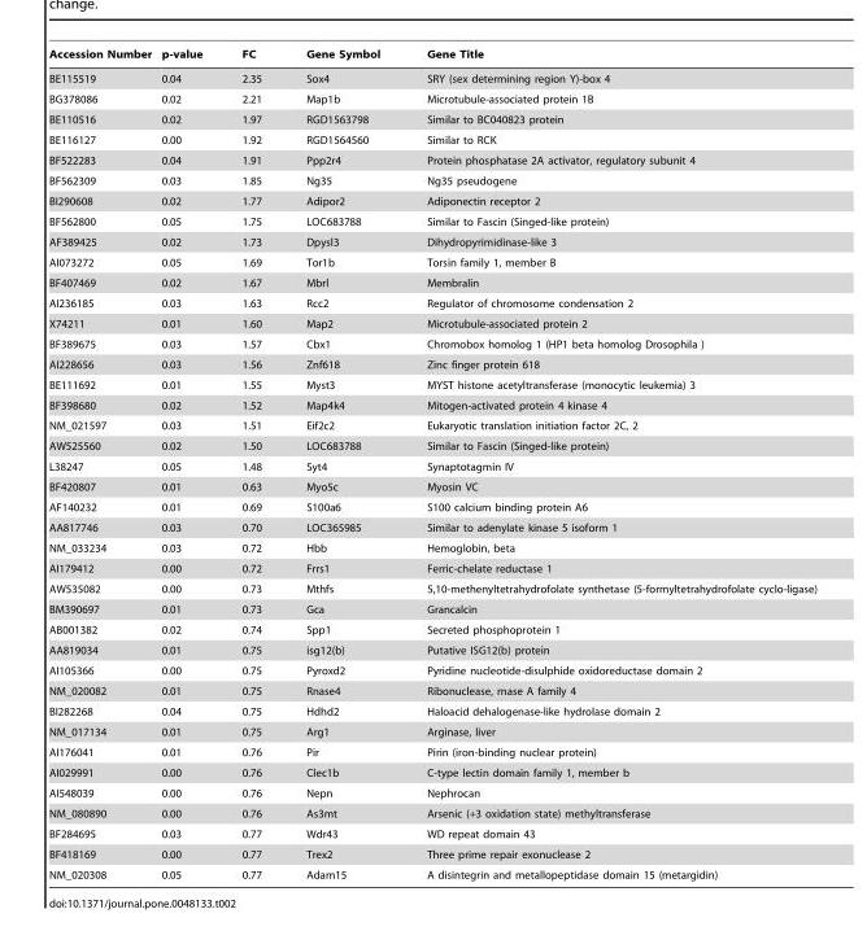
<table><thead><tr><td>Accession Number</td><td>p-value</td><td>FC</td><td>Gene Symbol</td><td>Gene Title</td></tr></thead><tbody><tr><td>BE115519</td><td>0.04</td><td>2.35</td><td>Sox4</td><td>SRY (sex determining region Y)-box 4</td></tr><tr><td>BG378086</td><td>0.02</td><td>2.21</td><td>Map1b</td><td>Microtubule-associated protein 1B</td></tr><tr><td>BE110516</td><td>0.02</td><td>1.97</td><td>RGD1563798</td><td>Similar to BC040823 protein</td></tr><tr><td>BE116127</td><td>0.00</td><td>1.92</td><td>RGD1564560</td><td>Similar to RCK</td></tr><tr><td>BF522283</td><td>0.04</td><td>1.91</td><td>Ppp2r4</td><td>Protein phosphatase 2A activator, regulatory subunit 4</td></tr><tr><td>BF562309</td><td>0.03</td><td>1.85</td><td>Ng35</td><td>Ng35 pseudogene</td></tr><tr><td>BI290608</td><td>0.02</td><td>1.77</td><td>Adipor2</td><td>Adiponectin receptor 2</td></tr><tr><td>BF562800</td><td>0.05</td><td>1.75</td><td>LOC683788</td><td>Similar to Fascin (Singed-like protein)</td></tr><tr><td>AF389425</td><td>0.02</td><td>1.73</td><td>Dpysl3</td><td>Dihydropyrimidinase-like 3</td></tr><tr><td>AI073272</td><td>0.05</td><td>1.69</td><td>Tor1b</td><td>Torsin family 1, member B</td></tr><tr><td>BF407469</td><td>0.02</td><td>1.67</td><td>Mbrl</td><td>Membralin</td></tr><tr><td>AI236185</td><td>0.03</td><td>1.63</td><td>Rcc2</td><td>Regulator of chromosome condensation 2</td></tr><tr><td>X74211</td><td>0.01</td><td>1.60</td><td>Map2</td><td>Microtubule-associated protein 2</td></tr><tr><td>BF389675</td><td>0.03</td><td>1.57</td><td>Cbx1</td><td>Chromobox homolog 1 (HP1 beta homolog Drosophila )</td></tr><tr><td>AI228656</td><td>0.03</td><td>1.56</td><td>Znf618</td><td>Zinc finger protein 618</td></tr><tr><td>BE111692</td><td>0.01</td><td>1.55</td><td>Myst3</td><td>MYST histone acetyltransferase (monocytic leukemia) 3</td></tr><tr><td>BF398680</td><td>0.02</td><td>1.52</td><td>Map4k4</td><td>Mitogen-activated protein 4 kinase 4</td></tr><tr><td>NM_021597</td><td>0.03</td><td>1.51</td><td>Eif2c2</td><td>Eukaryotic translation initiation factor 2C, 2</td></tr><tr><td>AW525560</td><td>0.02</td><td>1.50</td><td>LOC683788</td><td>Similar to Fascin (Singed-like protein)</td></tr><tr><td>L38247</td><td>0.05</td><td>1.48</td><td>Syt4</td><td>Synaptotagmin IV</td></tr><tr><td>BF420807</td><td>0.01</td><td>0.63</td><td>Myo5c</td><td>Myosin VC</td></tr><tr><td>AF140232</td><td>0.01</td><td>0.69</td><td>S100a6</td><td>S100 calcium binding protein A6</td></tr><tr><td>AA817746</td><td>0.03</td><td>0.70</td><td>LOC365985</td><td>Similar to adenylate kinase 5 isoform 1</td></tr><tr><td>NM_033234</td><td>0.03</td><td>0.72</td><td>Hbb</td><td>Hemoglobin, beta</td></tr><tr><td>AI179412</td><td>0.00</td><td>0.72</td><td>Frrs1</td><td>Ferric-chelate reductase 1</td></tr><tr><td>AW535082</td><td>0.00</td><td>0.73</td><td>Mthfs</td><td>5,10-methenyltetrahydrofolate synthetase (5-formyltetrahydrofolate cyclo-ligase)</td></tr><tr><td>BM390697</td><td>0.01</td><td>0.73</td><td>Gca</td><td>Grancalcin</td></tr><tr><td>AB001382</td><td>0.02</td><td>0.74</td><td>Spp1</td><td>Secreted phosphoprotein 1</td></tr><tr><td>AA819034</td><td>0.01</td><td>0.75</td><td>isg12(b)</td><td>Putative ISG12(b) protein</td></tr><tr><td>AI105366</td><td>0.00</td><td>0.75</td><td>Pyroxd2</td><td>Pyridine nucleotide-disulphide oxidoreductase domain 2</td></tr><tr><td>NM_020082</td><td>0.01</td><td>0.75</td><td>Rnase4</td><td>Ribonuclease, rnase A family 4</td></tr><tr><td>BI282268</td><td>0.04</td><td>0.75</td><td>Hdhd2</td><td>Haloacid dehalogenase-like hydrolase domain 2</td></tr><tr><td>NM_017134</td><td>0.01</td><td>0.75</td><td>Arg1</td><td>Arginase, liver</td></tr><tr><td>AI176041</td><td>0.01</td><td>0.76</td><td>Pir</td><td>Pirin (iron-binding nuclear protein)</td></tr><tr><td>AI029991</td><td>0.00</td><td>0.76</td><td>Clec1b</td><td>C-type lectin domain family 1, member b</td></tr><tr><td>AI548039</td><td>0.00</td><td>0.76</td><td>Nepn</td><td>Nephrocan</td></tr><tr><td>NM_080890</td><td>0.00</td><td>0.76</td><td>As3mt</td><td>Arsenic (+3 oxidation state) methyltransferase</td></tr><tr><td>BF284695</td><td>0.03</td><td>0.77</td><td>Wdr43</td><td>WD repeat domain 43</td></tr><tr><td>BF418169</td><td>0.00</td><td>0.77</td><td>Trex2</td><td>Three prime repair exonuclease 2</td></tr><tr><td>NM_020308</td><td>0.05</td><td>0.77</td><td>Adam15</td><td>A disintegrin and metallopeptidase domain 15 (metargidin)</td></tr></tbody></table>